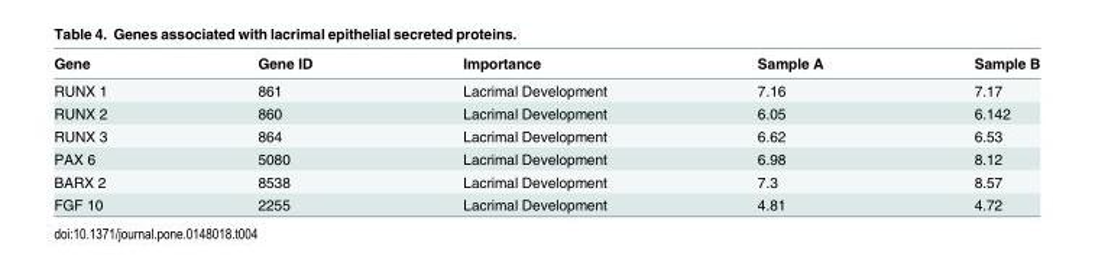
<table><thead><tr><td>Gene</td><td>Gene ID</td><td>Importance</td><td>Sample A</td><td>Sample B</td></tr></thead><tbody><tr><td>RUNX 1</td><td>861</td><td>Lacrimal Development</td><td>7.16</td><td>7.17</td></tr><tr><td>RUNX 2</td><td>860</td><td>Lacrimal Development</td><td>6.05</td><td>6.142</td></tr><tr><td>RUNX 3</td><td>864</td><td>Lacrimal Development</td><td>6.62</td><td>6.53</td></tr><tr><td>PAX 6</td><td>5080</td><td>Lacrimal Development</td><td>6.98</td><td>8.12</td></tr><tr><td>BARX 2</td><td>8538</td><td>Lacrimal Development</td><td>7.3</td><td>8.57</td></tr><tr><td>FGF 10</td><td>2255</td><td>Lacrimal Development</td><td>4.81</td><td>4.72</td></tr></tbody></table>